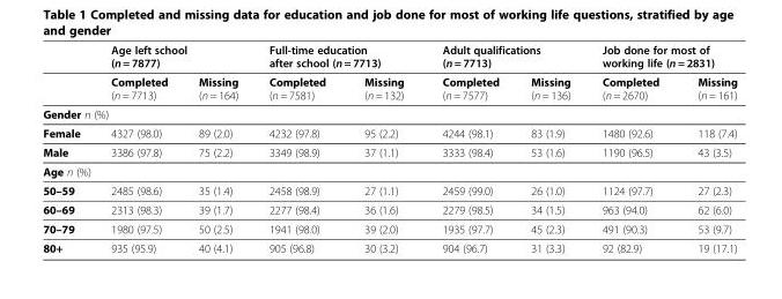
<table><thead><tr><td rowspan="2"></td><td colspan="2">Age left school (n = 7877)</td><td colspan="2">Full-time education after school (n = 7713)</td><td colspan="2">Adult qualifications (n = 7713)</td><td colspan="2">Job done for most of working life (n = 2831)</td></tr><tr><td>Completed (n = 7713)</td><td>Missing (n = 164)</td><td>Completed (n = 7581)</td><td>Missing (n = 132)</td><td>Completed (n = 7577)</td><td>Missing (n = 136)</td><td>Completed (n = 2670)</td><td>Missing (n = 161)</td></tr></thead><tbody><tr><td colspan="9">Gender n (%)</td></tr><tr><td>Female</td><td>4327 (98.0)</td><td>89 (2.0)</td><td>4232 (97.8)</td><td>95 (2.2)</td><td>4244 (98.1)</td><td>83 (1.9)</td><td>1480 (92.6)</td><td>118 (7.4)</td></tr><tr><td>Male</td><td>3386 (97.8)</td><td>75 (2.2)</td><td>3349 (98.9)</td><td>37 (1.1)</td><td>3333 (98.4)</td><td>53 (1.6)</td><td>1190 (96.5)</td><td>43 (3.5)</td></tr><tr><td colspan="9">Age n (%)</td></tr><tr><td>50–59</td><td>2485 (98.6)</td><td>35 (1.4)</td><td>2458 (98.9)</td><td>27 (1.1)</td><td>2459 (99.0)</td><td>26 (1.0)</td><td>1124 (97.7)</td><td>27 (2.3)</td></tr><tr><td>60–69</td><td>2313 (98.3)</td><td>39 (1.7)</td><td>2277 (98.4)</td><td>36 (1.6)</td><td>2279 (98.5)</td><td>34 (1.5)</td><td>963 (94.0)</td><td>62 (6.0)</td></tr><tr><td>70–79</td><td>1980 (97.5)</td><td>50 (2.5)</td><td>1941 (98.0)</td><td>39 (2.0)</td><td>1935 (97.7)</td><td>45 (2.3)</td><td>491 (90.3)</td><td>53 (9.7)</td></tr><tr><td>80+</td><td>935 (95.9)</td><td>40 (4.1)</td><td>905 (96.8)</td><td>30 (3.2)</td><td>904 (96.7)</td><td>31 (3.3)</td><td>92 (82.9)</td><td>19 (17.1)</td></tr></tbody></table>